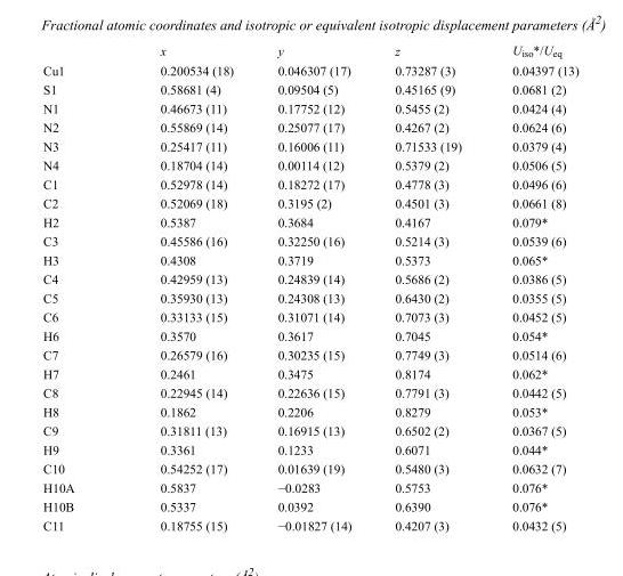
<table><thead><tr><td></td><td>x</td><td>y</td><td>z</td><td>U<sub>iso</sub>*/U<sub>eq</sub></td></tr></thead><tbody><tr><td>Cu1</td><td>0.200534 (18)</td><td>0.046307 (17)</td><td>0.73287 (3)</td><td>0.04397 (13)</td></tr><tr><td>S1</td><td>0.58681 (4)</td><td>0.09504 (5)</td><td>0.45165 (9)</td><td>0.0681 (2)</td></tr><tr><td>N1</td><td>0.46673 (11)</td><td>0.17752 (12)</td><td>0.5455 (2)</td><td>0.0424 (4)</td></tr><tr><td>N2</td><td>0.55869 (14)</td><td>0.25077 (17)</td><td>0.4267 (2)</td><td>0.0624 (6)</td></tr><tr><td>N3</td><td>0.25417 (11)</td><td>0.16006 (11)</td><td>0.71533 (19)</td><td>0.0379 (4)</td></tr><tr><td>N4</td><td>0.18704 (14)</td><td>0.00114 (12)</td><td>0.5379 (2)</td><td>0.0506 (5)</td></tr><tr><td>C1</td><td>0.52978 (14)</td><td>0.18272 (17)</td><td>0.4778 (3)</td><td>0.0496 (6)</td></tr><tr><td>C2</td><td>0.52069 (18)</td><td>0.3195 (2)</td><td>0.4501 (3)</td><td>0.0661 (8)</td></tr><tr><td>H2</td><td>0.5387</td><td>0.3684</td><td>0.4167</td><td>0.079*</td></tr><tr><td>C3</td><td>0.45586 (16)</td><td>0.32250 (16)</td><td>0.5214 (3)</td><td>0.0539 (6)</td></tr><tr><td>H3</td><td>0.4308</td><td>0.3719</td><td>0.5373</td><td>0.065*</td></tr><tr><td>C4</td><td>0.42959 (13)</td><td>0.24839 (14)</td><td>0.5686 (2)</td><td>0.0386 (5)</td></tr><tr><td>C5</td><td>0.35930 (13)</td><td>0.24308 (13)</td><td>0.6430 (2)</td><td>0.0355 (5)</td></tr><tr><td>C6</td><td>0.33133 (15)</td><td>0.31071 (14)</td><td>0.7073 (3)</td><td>0.0452 (5)</td></tr><tr><td>H6</td><td>0.3570</td><td>0.3617</td><td>0.7045</td><td>0.054*</td></tr><tr><td>C7</td><td>0.26579 (16)</td><td>0.30235 (15)</td><td>0.7749 (3)</td><td>0.0514 (6)</td></tr><tr><td>H7</td><td>0.2461</td><td>0.3475</td><td>0.8174</td><td>0.062*</td></tr><tr><td>C8</td><td>0.22945 (14)</td><td>0.22636 (15)</td><td>0.7791 (3)</td><td>0.0442 (5)</td></tr><tr><td>H8</td><td>0.1862</td><td>0.2206</td><td>0.8279</td><td>0.053*</td></tr><tr><td>C9</td><td>0.31811 (13)</td><td>0.16915 (13)</td><td>0.6502 (2)</td><td>0.0367 (5)</td></tr><tr><td>H9</td><td>0.3361</td><td>0.1233</td><td>0.6071</td><td>0.044*</td></tr><tr><td>C10</td><td>0.54252 (17)</td><td>0.01639 (19)</td><td>0.5480 (3)</td><td>0.0632 (7)</td></tr><tr><td>H10A</td><td>0.5837</td><td>−0.0283</td><td>0.5753</td><td>0.076*</td></tr><tr><td>H10B</td><td>0.5337</td><td>0.0392</td><td>0.6390</td><td>0.076*</td></tr><tr><td>C11</td><td>0.18755 (15)</td><td>−0.01827 (14)</td><td>0.4207 (3)</td><td>0.0432 (5)</td></tr></tbody></table>